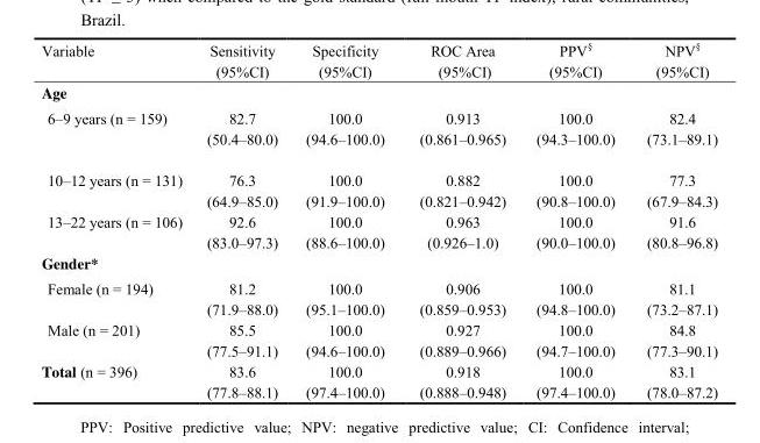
<table><thead><tr><td>Variable</td><td>Sensitivity (95%CI)</td><td>Specificity (95%CI)</td><td>ROC Area (95%CI)</td><td>PPV<sup>§</sup> (95%CI)</td><td>NPV<sup>§</sup> (95%CI)</td></tr></thead><tbody><tr><td colspan="6">Age</td></tr><tr><td>6–9 years (n = 159)</td><td>82.7 (50.4–80.0)</td><td>100.0 (94.6–100.0)</td><td>0.913 (0.861–0.965)</td><td>100.0 (94.3–100.0)</td><td>82.4 (73.1–89.1)</td></tr><tr><td>10–12 years (n = 131)</td><td>76.3 (64.9–85.0)</td><td>100.0 (91.9–100.0)</td><td>0.882 (0.821–0.942)</td><td>100.0 (90.8–100.0)</td><td>77.3 (67.9–84.3)</td></tr><tr><td>13–22 years (n = 106)</td><td>92.6 (83.0–97.3)</td><td>100.0 (88.6–100.0)</td><td>0.963 (0.926–1.0)</td><td>100.0 (90.0–100.0)</td><td>91.6 (80.8–96.8)</td></tr><tr><td colspan="6">Gender*</td></tr><tr><td>Female (n = 194)</td><td>81.2 (71.9–88.0)</td><td>100.0 (95.1–100.0)</td><td>0.906 (0.859–0.953)</td><td>100.0 (94.8–100.0)</td><td>81.1 (73.2–87.1)</td></tr><tr><td>Male (n = 201)</td><td>85.5 (77.5–91.1)</td><td>100.0 (94.6–100.0)</td><td>0.927 (0.889–0.966)</td><td>100.0 (94.7–100.0)</td><td>84.8 (77.3–90.1)</td></tr><tr><td>Total (n = 396)</td><td>83.6 (77.8–88.1)</td><td>100.0 (97.4–100.0)</td><td>0.918 (0.888–0.948)</td><td>100.0 (97.4–100.0)</td><td>83.1 (78.0–87.2)</td></tr></tbody></table>